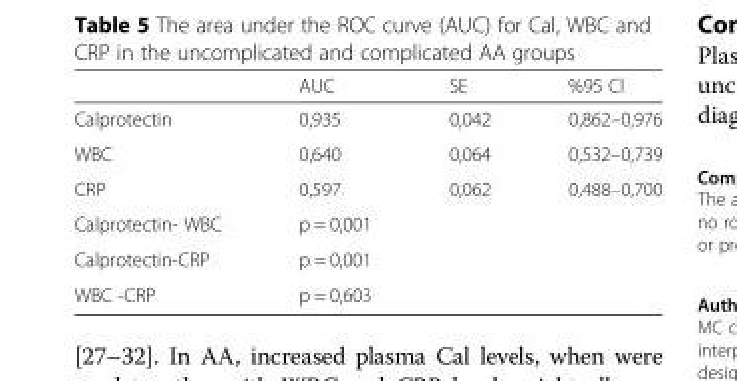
<table><thead><tr><td></td><td>AUC</td><td>SE</td><td>%95 Cl</td></tr></thead><tbody><tr><td>Calprotectin</td><td>0,935</td><td>0,042</td><td>0,862–0,976</td></tr><tr><td>WBC</td><td>0,640</td><td>0,064</td><td>0,532–0,739</td></tr><tr><td>CRP</td><td>0,597</td><td>0,062</td><td>0,488–0,700</td></tr><tr><td>Calprotectin- WBC</td><td>p = 0,001</td><td></td><td></td></tr><tr><td>Calprotectin-CRP</td><td>p = 0,001</td><td></td><td></td></tr><tr><td>WBC -CRP</td><td>p = 0,603</td><td></td><td></td></tr></tbody></table>